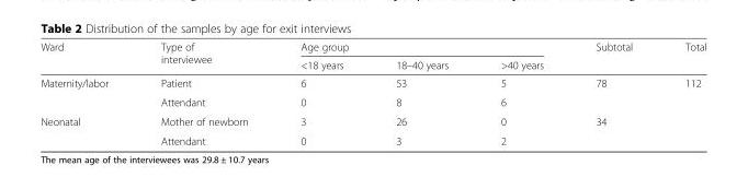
<table><thead><tr><td rowspan="2">Ward</td><td rowspan="2">Type of interviewee</td><td colspan="3">Age group</td><td rowspan="2">Subtotal</td><td rowspan="2">Total</td></tr><tr><td>&lt;18 years</td><td>18–40 years</td><td>&gt;40 years</td></tr></thead><tbody><tr><td rowspan="2">Maternity/labor</td><td>Patient</td><td>6</td><td>53</td><td>5</td><td rowspan="2">78</td><td rowspan="4">112</td></tr><tr><td>Attendant</td><td>0</td><td>8</td><td>6</td></tr><tr><td rowspan="2">Neonatal</td><td>Mother of newborn</td><td>3</td><td>26</td><td>0</td><td rowspan="2">34</td></tr><tr><td>Attendant</td><td>0</td><td>3</td><td>2</td></tr></tbody></table>